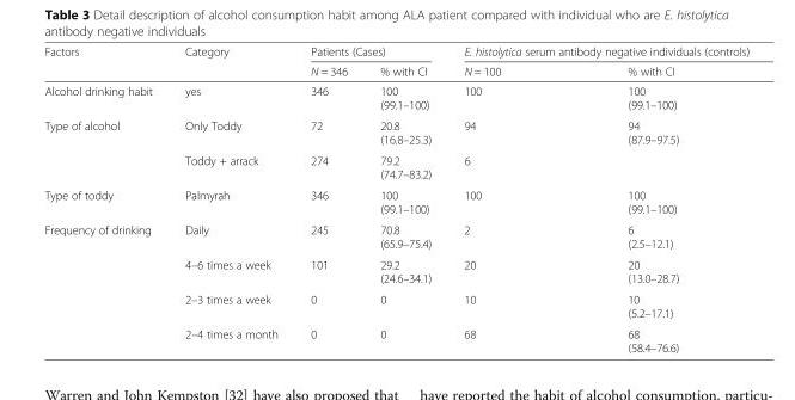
<table><thead><tr><td rowspan="2">Factors</td><td rowspan="2">Category</td><td colspan="2">Patients (Cases)</td><td colspan="2">E. histolytica serum antibody negative individuals (controls)</td></tr><tr><td>N = 346</td><td>% with CI</td><td>N = 100</td><td>% with CI</td></tr></thead><tbody><tr><td>Alcohol drinking habit</td><td>yes</td><td>346</td><td>100 (99.1–100)</td><td>100</td><td>100 (99.1–100)</td></tr><tr><td rowspan="2">Type of alcohol</td><td>Only Toddy</td><td>72</td><td>20.8 (16.8–25.3)</td><td>94</td><td>94 (87.9–97.5)</td></tr><tr><td>Toddy + arrack</td><td>274</td><td>79.2 (74.7–83.2)</td><td>6</td><td></td></tr><tr><td>Type of toddy</td><td>Palmyrah</td><td>346</td><td>100 (99.1–100)</td><td>100</td><td>100 (99.1–100)</td></tr><tr><td rowspan="4">Frequency of drinking</td><td>Daily</td><td>245</td><td>70.8 (65.9–75.4)</td><td>2</td><td>6 (2.5–12.1)</td></tr><tr><td>4–6 times a week</td><td>101</td><td>29.2 (24.6–34.1)</td><td>20</td><td>20 (13.0–28.7)</td></tr><tr><td>2–3 times a week</td><td>0</td><td>0</td><td>10</td><td>10 (5.2–17.1)</td></tr><tr><td>2–4 times a month</td><td>0</td><td>0</td><td>68</td><td>68 (58.4–76.6)</td></tr></tbody></table>